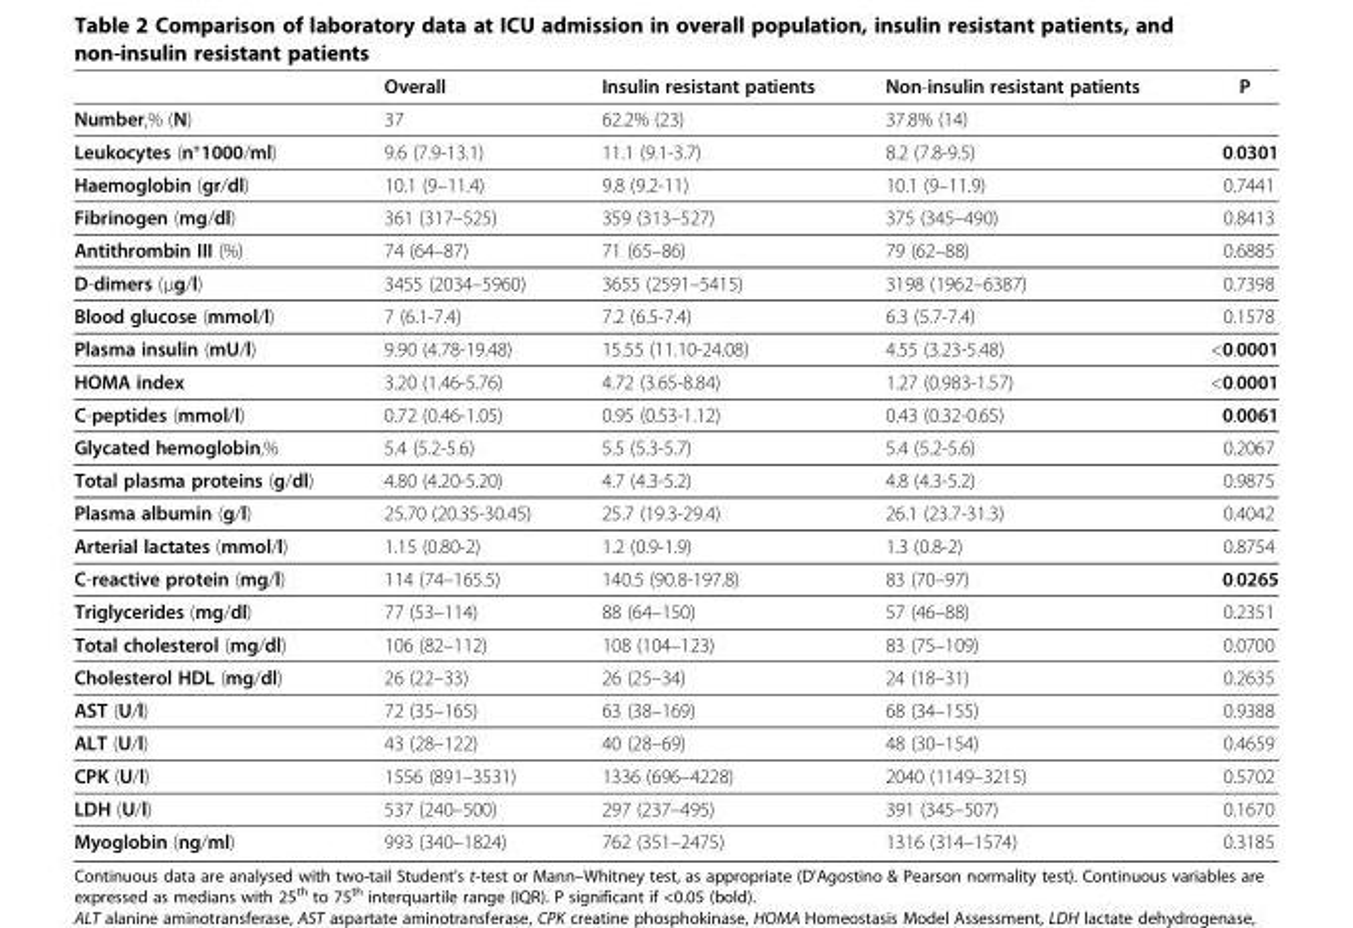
<table><thead><tr><td></td><td>Overall</td><td>Insulin resistant patients</td><td>Non-insulin resistant patients</td><td>P</td></tr></thead><tbody><tr><td>Number,% (N)</td><td>37</td><td>62.2% (23)</td><td>37.8% (14)</td><td></td></tr><tr><td>Leukocytes (n*1000/ml)</td><td>9.6 (7.9-13.1)</td><td>11.1 (9.1-3.7)</td><td>8.2 (7.8-9.5)</td><td>0.0301</td></tr><tr><td>Haemoglobin (gr/dl)</td><td>10.1 (9–11.4)</td><td>9.8 (9.2-11)</td><td>10.1 (9–11.9)</td><td>0.7441</td></tr><tr><td>Fibrinogen (mg/dl)</td><td>361 (317–525)</td><td>359 (313–527)</td><td>375 (345–490)</td><td>0.8413</td></tr><tr><td>Antithrombin III (%)</td><td>74 (64–87)</td><td>71 (65–86)</td><td>79 (62–88)</td><td>0.6885</td></tr><tr><td>D-dimers (μg/l)</td><td>3455 (2034–5960)</td><td>3655 (2591–5415)</td><td>3198 (1962–6387)</td><td>0.7398</td></tr><tr><td>Blood glucose (mmol/l)</td><td>7 (6.1-7.4)</td><td>7.2 (6.5-7.4)</td><td>6.3 (5.7-7.4)</td><td>0.1578</td></tr><tr><td>Plasma insulin (mU/l)</td><td>9.90 (4.78-19.48)</td><td>15.55 (11.10-24.08)</td><td>4.55 (3.23-5.48)</td><td>&lt;0.0001</td></tr><tr><td>HOMA index</td><td>3.20 (1.46-5.76)</td><td>4.72 (3.65-8.84)</td><td>1.27 (0.983-1.57)</td><td>&lt;0.0001</td></tr><tr><td>C-peptides (mmol/l)</td><td>0.72 (0.46-1.05)</td><td>0.95 (0.53-1.12)</td><td>0.43 (0.32-0.65)</td><td>0.0061</td></tr><tr><td>Glycated hemoglobin,%</td><td>5.4 (5.2-5.6)</td><td>5.5 (5.3-5.7)</td><td>5.4 (5.2-5.6)</td><td>0.2067</td></tr><tr><td>Total plasma proteins (g/dl)</td><td>4.80 (4.20-5.20)</td><td>4.7 (4.3-5.2)</td><td>4.8 (4.3-5.2)</td><td>0.9875</td></tr><tr><td>Plasma albumin (g/l)</td><td>25.70 (20.35-30.45)</td><td>25.7 (19.3-29.4)</td><td>26.1 (23.7-31.3)</td><td>0.4042</td></tr><tr><td>Arterial lactates (mmol/l)</td><td>1.15 (0.80-2)</td><td>1.2 (0.9-1.9)</td><td>1.3 (0.8-2)</td><td>0.8754</td></tr><tr><td>C-reactive protein (mg/l)</td><td>114 (74–165.5)</td><td>140.5 (90.8-197.8)</td><td>83 (70–97)</td><td>0.0265</td></tr><tr><td>Triglycerides (mg/dl)</td><td>77 (53–114)</td><td>88 (64–150)</td><td>57 (46–88)</td><td>0.2351</td></tr><tr><td>Total cholesterol (mg/dl)</td><td>106 (82–112)</td><td>108 (104–123)</td><td>83 (75–109)</td><td>0.0700</td></tr><tr><td>Cholesterol HDL (mg/dl)</td><td>26 (22–33)</td><td>26 (25–34)</td><td>24 (18–31)</td><td>0.2635</td></tr><tr><td>AST (U/l)</td><td>72 (35–165)</td><td>63 (38–169)</td><td>68 (34–155)</td><td>0.9388</td></tr><tr><td>ALT (U/l)</td><td>43 (28–122)</td><td>40 (28–69)</td><td>48 (30–154)</td><td>0.4659</td></tr><tr><td>CPK (U/l)</td><td>1556 (891–3531)</td><td>1336 (696–4228)</td><td>2040 (1149–3215)</td><td>0.5702</td></tr><tr><td>LDH (U/l)</td><td>537 (240–500)</td><td>297 (237–495)</td><td>391 (345–507)</td><td>0.1670</td></tr><tr><td>Myoglobin (ng/ml)</td><td>993 (340–1824)</td><td>762 (351–2475)</td><td>1316 (314–1574)</td><td>0.3185</td></tr></tbody></table>